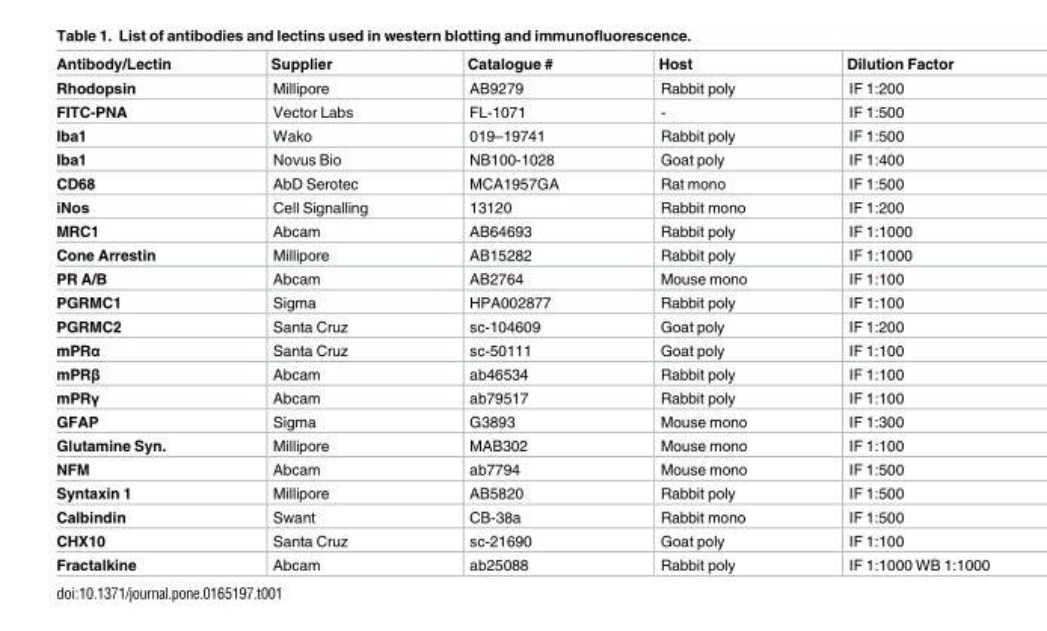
<table><thead><tr><td>Antibody/Lectin</td><td>Supplier</td><td>Catalogue #</td><td>Host</td><td>Dilution Factor</td></tr></thead><tbody><tr><td>Rhodopsin</td><td>Millipore</td><td>AB9279</td><td>Rabbit poly</td><td>IF 1:200</td></tr><tr><td>FITC-PNA</td><td>Vector Labs</td><td>FL-1071</td><td>-</td><td>IF 1:500</td></tr><tr><td>Iba1</td><td>Wako</td><td>019–19741</td><td>Rabbit poly</td><td>IF 1:500</td></tr><tr><td>Iba1</td><td>Novus Bio</td><td>NB100-1028</td><td>Goat poly</td><td>IF 1:400</td></tr><tr><td>CD68</td><td>AbD Serotec</td><td>MCA1957GA</td><td>Rat mono</td><td>IF 1:500</td></tr><tr><td>iNos</td><td>Cell Signalling</td><td>13120</td><td>Rabbit mono</td><td>IF 1:200</td></tr><tr><td>MRC1</td><td>Abcam</td><td>AB64693</td><td>Rabbit poly</td><td>IF 1:1000</td></tr><tr><td>Cone Arrestin</td><td>Millipore</td><td>AB15282</td><td>Rabbit poly</td><td>IF 1:1000</td></tr><tr><td>PR A/B</td><td>Abcam</td><td>AB2764</td><td>Mouse mono</td><td>IF 1:100</td></tr><tr><td>PGRMC1</td><td>Sigma</td><td>HPA002877</td><td>Rabbit poly</td><td>IF 1:100</td></tr><tr><td>PGRMC2</td><td>Santa Cruz</td><td>sc-104609</td><td>Goat poly</td><td>IF 1:200</td></tr><tr><td>mPRα</td><td>Santa Cruz</td><td>sc-50111</td><td>Goat poly</td><td>IF 1:100</td></tr><tr><td>mPRβ</td><td>Abcam</td><td>ab46534</td><td>Rabbit poly</td><td>IF 1:100</td></tr><tr><td>mPRγ</td><td>Abcam</td><td>ab79517</td><td>Rabbit poly</td><td>IF 1:100</td></tr><tr><td>GFAP</td><td>Sigma</td><td>G3893</td><td>Mouse mono</td><td>IF 1:300</td></tr><tr><td>Glutamine Syn.</td><td>Millipore</td><td>MAB302</td><td>Mouse mono</td><td>IF 1:100</td></tr><tr><td>NFM</td><td>Abcam</td><td>ab7794</td><td>Mouse mono</td><td>IF 1:500</td></tr><tr><td>Syntaxin 1</td><td>Millipore</td><td>AB5820</td><td>Rabbit poly</td><td>IF 1:500</td></tr><tr><td>Calbindin</td><td>Swant</td><td>CB-38a</td><td>Rabbit mono</td><td>IF 1:500</td></tr><tr><td>CHX10</td><td>Santa Cruz</td><td>sc-21690</td><td>Goat poly</td><td>IF 1:100</td></tr><tr><td>Fractalkine</td><td>Abcam</td><td>ab25088</td><td>Rabbit poly</td><td>IF 1:1000 WB 1:1000</td></tr></tbody></table>